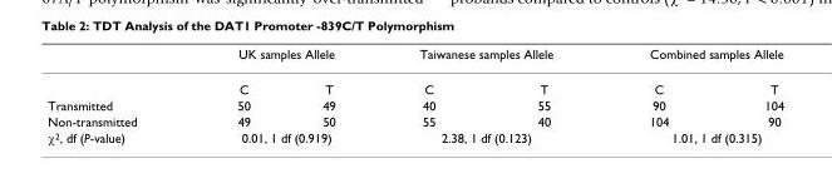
<table><thead><tr><td rowspan="2"></td><td colspan="2">UK samples Allele</td><td colspan="2">Taiwanese samples Allele</td><td colspan="2">Combined samples Allele</td></tr><tr><td>C</td><td>T</td><td>C</td><td>T</td><td>C</td><td>T</td></tr></thead><tbody><tr><td>Transmitted</td><td>50</td><td>49</td><td>40</td><td>55</td><td>90</td><td>104</td></tr><tr><td>Non-transmitted</td><td>49</td><td>50</td><td>55</td><td>40</td><td>104</td><td>90</td></tr><tr><td>χ<sup>2</sup>, df (P-value)</td><td colspan="2">0.01, 1 df (0.919)</td><td colspan="2">2.38, 1 df (0.123)</td><td colspan="2">1.01, 1 df (0.315)</td></tr></tbody></table>